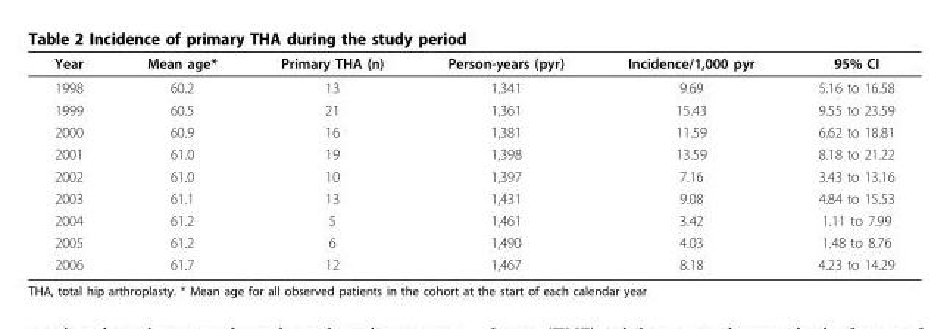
<table><thead><tr><td>Year</td><td>Mean age*</td><td>Primary THA (n)</td><td>Person-years (pyr)</td><td>Incidence/1,000 pyr</td><td>95% CI</td></tr></thead><tbody><tr><td>1998</td><td>60.2</td><td>13</td><td>1,341</td><td>9.69</td><td>5.16 to 16.58</td></tr><tr><td>1999</td><td>60.5</td><td>21</td><td>1,361</td><td>15.43</td><td>9.55 to 23.59</td></tr><tr><td>2000</td><td>60.9</td><td>16</td><td>1,381</td><td>11.59</td><td>6.62 to 18.81</td></tr><tr><td>2001</td><td>61.0</td><td>19</td><td>1,398</td><td>13.59</td><td>8.18 to 21.22</td></tr><tr><td>2002</td><td>61.0</td><td>10</td><td>1,397</td><td>7.16</td><td>3.43 to 13.16</td></tr><tr><td>2003</td><td>61.1</td><td>13</td><td>1,431</td><td>9.08</td><td>4.84 to 15.53</td></tr><tr><td>2004</td><td>61.2</td><td>5</td><td>1,461</td><td>3.42</td><td>1.11 to 7.99</td></tr><tr><td>2005</td><td>61.2</td><td>6</td><td>1,490</td><td>4.03</td><td>1.48 to 8.76</td></tr><tr><td>2006</td><td>61.7</td><td>12</td><td>1,467</td><td>8.18</td><td>4.23 to 14.29</td></tr></tbody></table>